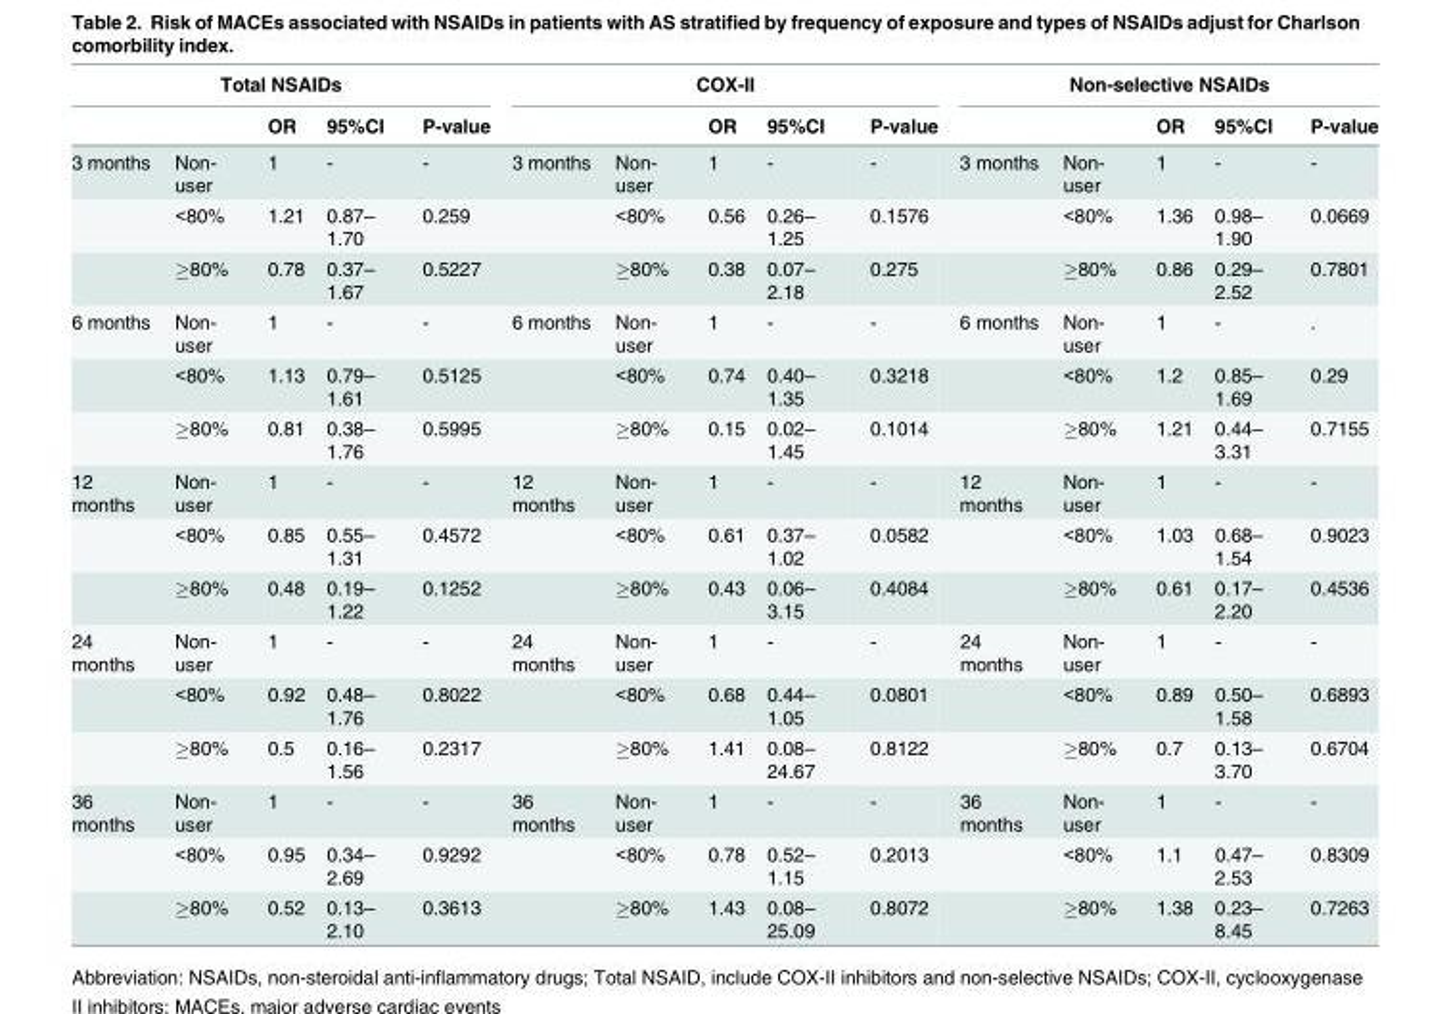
<table><thead><tr><td colspan="5">Total NSAIDs</td><td colspan="5">COX-II</td><td colspan="5">Non-selective NSAIDs</td></tr><tr><td></td><td></td><td>OR</td><td>95%CI</td><td>P-value</td><td></td><td></td><td>OR</td><td>95%CI</td><td>P-value</td><td></td><td></td><td>OR</td><td>95%CI</td><td>P-value</td></tr></thead><tbody><tr><td rowspan="3">3 months</td><td>Non- user</td><td>1</td><td>-</td><td>-</td><td>3 months</td><td>Non- user</td><td>1</td><td>-</td><td>-</td><td>3 months</td><td>Non- user</td><td>1</td><td>-</td><td>-</td></tr><tr><td>&lt;80%</td><td>1.21</td><td>0.87– 1.70</td><td>0.259</td><td></td><td>&lt;80%</td><td>0.56</td><td>0.26– 1.25</td><td>0.1576</td><td></td><td>&lt;80%</td><td>1.36</td><td>0.98– 1.90</td><td>0.0669</td></tr><tr><td>≥80%</td><td>0.78</td><td>0.37– 1.67</td><td>0.5227</td><td></td><td>≥80%</td><td>0.38</td><td>0.07– 2.18</td><td>0.275</td><td></td><td>≥80%</td><td>0.86</td><td>0.29– 2.52</td><td>0.7801</td></tr><tr><td rowspan="3">6 months</td><td>Non- user</td><td>1</td><td>-</td><td>-</td><td>6 months</td><td>Non- user</td><td>1</td><td>-</td><td>-</td><td>6 months</td><td>Non- user</td><td>1</td><td>-</td><td>.</td></tr><tr><td>&lt;80%</td><td>1.13</td><td>0.79– 1.61</td><td>0.5125</td><td></td><td>&lt;80%</td><td>0.74</td><td>0.40– 1.35</td><td>0.3218</td><td></td><td>&lt;80%</td><td>1.2</td><td>0.85– 1.69</td><td>0.29</td></tr><tr><td>≥80%</td><td>0.81</td><td>0.38– 1.76</td><td>0.5995</td><td></td><td>≥80%</td><td>0.15</td><td>0.02– 1.45</td><td>0.1014</td><td></td><td>≥80%</td><td>1.21</td><td>0.44– 3.31</td><td>0.7155</td></tr><tr><td rowspan="3">12 months</td><td>Non- user</td><td>1</td><td>-</td><td>-</td><td>12 months</td><td>Non- user</td><td>1</td><td>-</td><td>-</td><td>12 months</td><td>Non- user</td><td>1</td><td>-</td><td>-</td></tr><tr><td>&lt;80%</td><td>0.85</td><td>0.55– 1.31</td><td>0.4572</td><td></td><td>&lt;80%</td><td>0.61</td><td>0.37– 1.02</td><td>0.0582</td><td></td><td>&lt;80%</td><td>1.03</td><td>0.68– 1.54</td><td>0.9023</td></tr><tr><td>≥80%</td><td>0.48</td><td>0.19– 1.22</td><td>0.1252</td><td></td><td>≥80%</td><td>0.43</td><td>0.06– 3.15</td><td>0.4084</td><td></td><td>≥80%</td><td>0.61</td><td>0.17– 2.20</td><td>0.4536</td></tr><tr><td rowspan="3">24 months</td><td>Non- user</td><td>1</td><td>-</td><td>-</td><td>24 months</td><td>Non- user</td><td>1</td><td>-</td><td>-</td><td>24 months</td><td>Non- user</td><td>1</td><td>-</td><td>-</td></tr><tr><td>&lt;80%</td><td>0.92</td><td>0.48– 1.76</td><td>0.8022</td><td></td><td>&lt;80%</td><td>0.68</td><td>0.44– 1.05</td><td>0.0801</td><td></td><td>&lt;80%</td><td>0.89</td><td>0.50– 1.58</td><td>0.6893</td></tr><tr><td>≥80%</td><td>0.5</td><td>0.16– 1.56</td><td>0.2317</td><td></td><td>≥80%</td><td>1.41</td><td>0.08– 24.67</td><td>0.8122</td><td></td><td>≥80%</td><td>0.7</td><td>0.13– 3.70</td><td>0.6704</td></tr><tr><td rowspan="3">36 months</td><td>Non- user</td><td>1</td><td>-</td><td>-</td><td>36 months</td><td>Non- user</td><td>1</td><td>-</td><td>-</td><td>36 months</td><td>Non- user</td><td>1</td><td>-</td><td>-</td></tr><tr><td>&lt;80%</td><td>0.95</td><td>0.34– 2.69</td><td>0.9292</td><td></td><td>&lt;80%</td><td>0.78</td><td>0.52– 1.15</td><td>0.2013</td><td></td><td>&lt;80%</td><td>1.1</td><td>0.47– 2.53</td><td>0.8309</td></tr><tr><td>≥80%</td><td>0.52</td><td>0.13– 2.10</td><td>0.3613</td><td></td><td>≥80%</td><td>1.43</td><td>0.08– 25.09</td><td>0.8072</td><td></td><td>≥80%</td><td>1.38</td><td>0.23– 8.45</td><td>0.7263</td></tr></tbody></table>